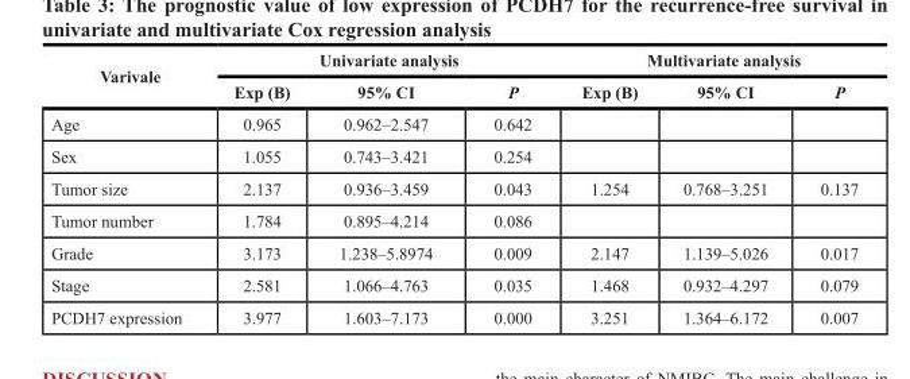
<table><thead><tr><td rowspan="2">Varivale</td><td colspan="3">Univariate analysis</td><td colspan="3">Multivariate analysis</td></tr><tr><td>Exp (B)</td><td>95% CI</td><td>P</td><td>Exp (B)</td><td>95% CI</td><td>P</td></tr></thead><tbody><tr><td>Age</td><td>0.965</td><td>0.962–2.547</td><td>0.642</td><td></td><td></td><td></td></tr><tr><td>Sex</td><td>1.055</td><td>0.743–3.421</td><td>0.254</td><td></td><td></td><td></td></tr><tr><td>Tumor size</td><td>2.137</td><td>0.936–3.459</td><td>0.043</td><td>1.254</td><td>0.768–3.251</td><td>0.137</td></tr><tr><td>Tumor number</td><td>1.784</td><td>0.895–4.214</td><td>0.086</td><td></td><td></td><td></td></tr><tr><td>Grade</td><td>3.173</td><td>1.238–5.8974</td><td>0.009</td><td>2.147</td><td>1.139–5.026</td><td>0.017</td></tr><tr><td>Stage</td><td>2.581</td><td>1.066–4.763</td><td>0.035</td><td>1.468</td><td>0.932–4.297</td><td>0.079</td></tr><tr><td>PCDH7 expression</td><td>3.977</td><td>1.603–7.173</td><td>0.000</td><td>3.251</td><td>1.364–6.172</td><td>0.007</td></tr></tbody></table>